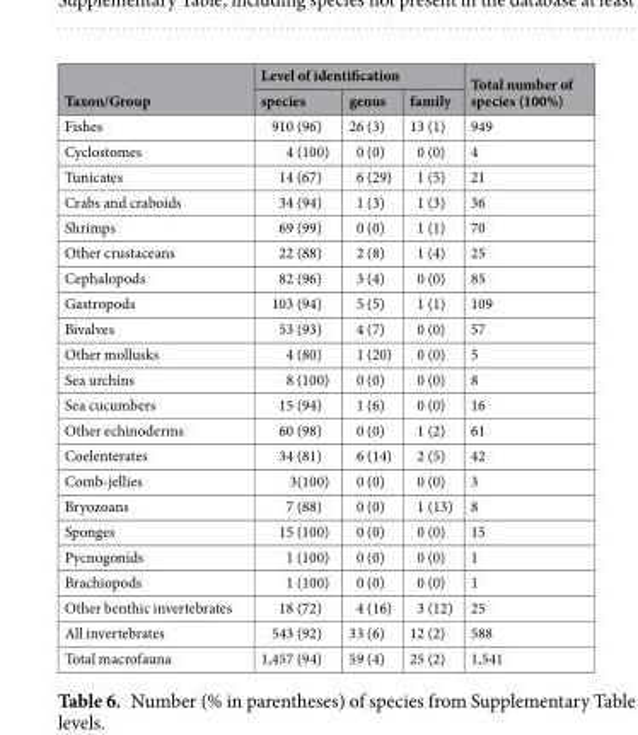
<table><thead><tr><td rowspan="2">Taxon/Group</td><td colspan="3">Level of identification</td><td rowspan="2">Total number of species (100%)</td></tr><tr><td>species</td><td>genus</td><td>family</td></tr></thead><tbody><tr><td>Fishes</td><td>910 (96)</td><td>26 (3)</td><td>13 (1)</td><td>949</td></tr><tr><td>Cyclostomes</td><td>4 (100)</td><td>0 (0)</td><td>0 (0)</td><td>4</td></tr><tr><td>Tunicates</td><td>14 (67)</td><td>6 (29)</td><td>1 (5)</td><td>21</td></tr><tr><td>Crabs and craboids</td><td>34 (94)</td><td>1 (3)</td><td>1 (3)</td><td>36</td></tr><tr><td>Shrimps</td><td>69 (99)</td><td>0 (0)</td><td>1 (1)</td><td>70</td></tr><tr><td>Other crustaceans</td><td>22 (88)</td><td>2 (8)</td><td>1 (4)</td><td>25</td></tr><tr><td>Cephalopods</td><td>82 (96)</td><td>3 (4)</td><td>0 (0)</td><td>85</td></tr><tr><td>Gastropods</td><td>103 (94)</td><td>5 (5)</td><td>1 (1)</td><td>109</td></tr><tr><td>Bivalves</td><td>53 (93)</td><td>4 (7)</td><td>0 (0)</td><td>57</td></tr><tr><td>Other mollusks</td><td>4 (80)</td><td>1 (20)</td><td>0 (0)</td><td>5</td></tr><tr><td>Sea urchins</td><td>8 (100)</td><td>0 (0)</td><td>0 (0)</td><td>8</td></tr><tr><td>Sea cucumbers</td><td>15 (94)</td><td>1 (6)</td><td>0 (0)</td><td>16</td></tr><tr><td>Other echinoderms</td><td>60 (98)</td><td>0 (0)</td><td>1 (2)</td><td>61</td></tr><tr><td>Coelenterates</td><td>34 (81)</td><td>6 (14)</td><td>2 (5)</td><td>42</td></tr><tr><td>Comb-jellies</td><td>3(100)</td><td>0 (0)</td><td>0 (0)</td><td>3</td></tr><tr><td>Bryozoans</td><td>7 (88)</td><td>0 (0)</td><td>1 (13)</td><td>8</td></tr><tr><td>Sponges</td><td>15 (100)</td><td>0 (0)</td><td>0 (0)</td><td>15</td></tr><tr><td>Pycnogonids</td><td>1 (100)</td><td>0 (0)</td><td>0 (0)</td><td>1</td></tr><tr><td>Brachiopods</td><td>1 (100)</td><td>0 (0)</td><td>0 (0)</td><td>1</td></tr><tr><td>Other benthic invertebrates</td><td>18 (72)</td><td>4 (16)</td><td>3 (12)</td><td>25</td></tr><tr><td>All invertebrates</td><td>543 (92)</td><td>33 (6)</td><td>12 (2)</td><td>588</td></tr><tr><td>Total macrofauna</td><td>1,457 (94)</td><td>59 (4)</td><td>25 (2)</td><td>1,541</td></tr></tbody></table>